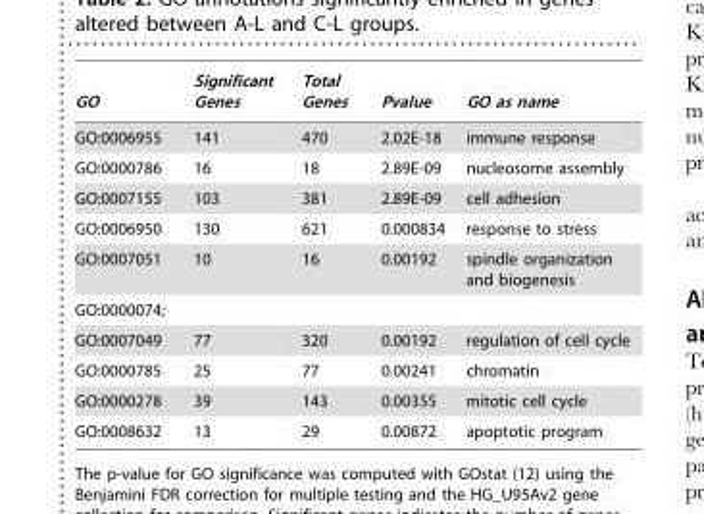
<table><thead><tr><td>GO</td><td>Significant Genes</td><td>Total Genes</td><td>Pvalue</td><td>GO as name</td></tr></thead><tbody><tr><td>GO:0006955</td><td>141</td><td>470</td><td>2.02E-18</td><td>immune response</td></tr><tr><td>GO:0000786</td><td>16</td><td>18</td><td>2.89E-09</td><td>nucleosome assembly</td></tr><tr><td>GO:0007155</td><td>103</td><td>381</td><td>2.89E-09</td><td>cell adhesion</td></tr><tr><td>GO:0006950</td><td>130</td><td>621</td><td>0.000834</td><td>response to stress</td></tr><tr><td>GO:0007051</td><td>10</td><td>16</td><td>0.00192</td><td>spindle organization and biogenesis</td></tr><tr><td colspan="5">GO:0000074;</td></tr><tr><td>GO:0007049</td><td>77</td><td>320</td><td>0.00192</td><td>regulation of cell cycle</td></tr><tr><td>GO:0000785</td><td>25</td><td>77</td><td>0.00241</td><td>chromatin</td></tr><tr><td>GO:0000278</td><td>39</td><td>143</td><td>0.00355</td><td>mitotic cell cycle</td></tr><tr><td>GO:0008632</td><td>13</td><td>29</td><td>0.00872</td><td>apoptotic program</td></tr></tbody></table>